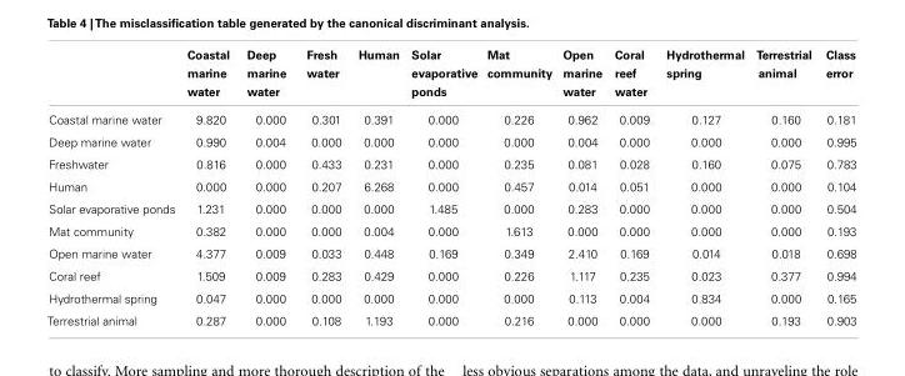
<table><thead><tr><td></td><td>Coastal marine water</td><td>Deep marine water</td><td>Fresh water</td><td>Human</td><td>Solar evaporative ponds</td><td>Mat community</td><td>Open marine water</td><td>Coral reef water</td><td>Hydrothermal spring</td><td>Terrestrial animal</td><td>Class error</td></tr></thead><tbody><tr><td>Coastal marine water</td><td>9.820</td><td>0.000</td><td>0.301</td><td>0.391</td><td>0.000</td><td>0.226</td><td>0.962</td><td>0.009</td><td>0.127</td><td>0.160</td><td>0.181</td></tr><tr><td>Deep marine water</td><td>0.990</td><td>0.004</td><td>0.000</td><td>0.000</td><td>0.000</td><td>0.000</td><td>0.004</td><td>0.000</td><td>0.000</td><td>0.000</td><td>0.995</td></tr><tr><td>Freshwater</td><td>0.816</td><td>0.000</td><td>0.433</td><td>0.231</td><td>0.000</td><td>0.235</td><td>0.081</td><td>0.028</td><td>0.160</td><td>0.075</td><td>0.783</td></tr><tr><td>Human</td><td>0.000</td><td>0.000</td><td>0.207</td><td>6.268</td><td>0.000</td><td>0.457</td><td>0.014</td><td>0.051</td><td>0.000</td><td>0.000</td><td>0.104</td></tr><tr><td>Solar evaporative ponds</td><td>1.231</td><td>0.000</td><td>0.000</td><td>0.000</td><td>1.485</td><td>0.000</td><td>0.283</td><td>0.000</td><td>0.000</td><td>0.000</td><td>0.504</td></tr><tr><td>Mat community</td><td>0.382</td><td>0.000</td><td>0.000</td><td>0.004</td><td>0.000</td><td>1.613</td><td>0.000</td><td>0.000</td><td>0.000</td><td>0.000</td><td>0.193</td></tr><tr><td>Open marine water</td><td>4.377</td><td>0.009</td><td>0.033</td><td>0.448</td><td>0.169</td><td>0.349</td><td>2.410</td><td>0.169</td><td>0.014</td><td>0.018</td><td>0.698</td></tr><tr><td>Coral reef</td><td>1.509</td><td>0.009</td><td>0.283</td><td>0.429</td><td>0.000</td><td>0.226</td><td>1.117</td><td>0.235</td><td>0.023</td><td>0.377</td><td>0.994</td></tr><tr><td>Hydrothermal spring</td><td>0.047</td><td>0.000</td><td>0.000</td><td>0.000</td><td>0.000</td><td>0.000</td><td>0.113</td><td>0.004</td><td>0.834</td><td>0.000</td><td>0.165</td></tr><tr><td>Terrestrial animal</td><td>0.287</td><td>0.000</td><td>0.108</td><td>1.193</td><td>0.000</td><td>0.216</td><td>0.000</td><td>0.000</td><td>0.000</td><td>0.193</td><td>0.903</td></tr></tbody></table>